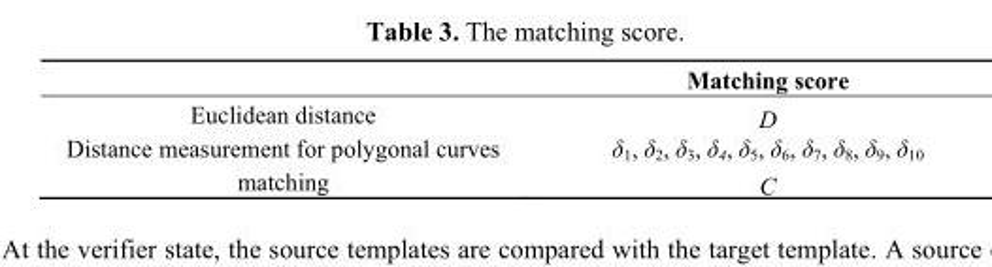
<table><thead><tr><td></td><td>Matching score</td></tr></thead><tbody><tr><td>Euclidean distance</td><td>D</td></tr><tr><td>Distance measurement for polygonal curves</td><td>δ<sub>1</sub>, δ<sub>2</sub>, δ<sub>3</sub>, δ<sub>4</sub>, δ<sub>5</sub>, δ<sub>6</sub>, δ<sub>7</sub>, δ<sub>8</sub>, δ<sub>9</sub>, δ<sub>10</sub></td></tr><tr><td>matching</td><td>C</td></tr></tbody></table>